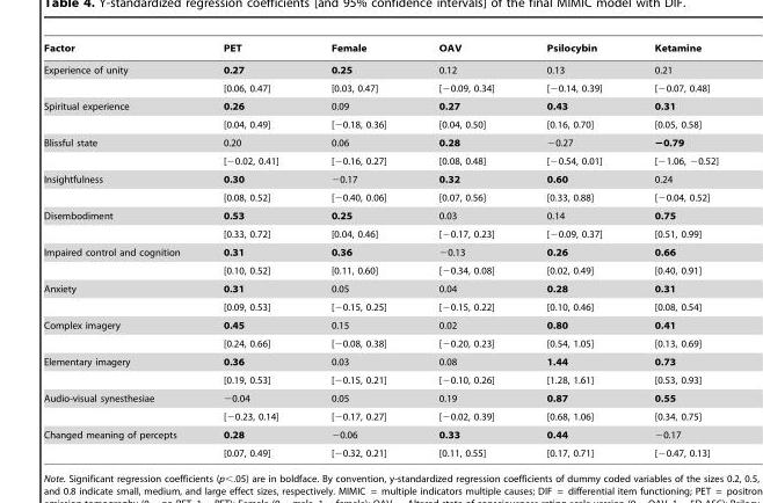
<table><thead><tr><td>Factor</td><td>PET</td><td>Female</td><td>OAV</td><td>Psilocybin</td><td>Ketamine</td></tr></thead><tbody><tr><td rowspan="2">Experience of unity</td><td>0.27</td><td>0.25</td><td>0.12</td><td>0.13</td><td>0.21</td></tr><tr><td>[0.06, 0.47]</td><td>[0.03, 0.47]</td><td>[−0.09, 0.34]</td><td>[−0.14, 0.39]</td><td>[−0.07, 0.48]</td></tr><tr><td rowspan="2">Spiritual experience</td><td>0.26</td><td>0.09</td><td>0.27</td><td>0.43</td><td>0.31</td></tr><tr><td>[0.04, 0.49]</td><td>[−0.18, 0.36]</td><td>[0.04, 0.50]</td><td>[0.16, 0.70]</td><td>[0.05, 0.58]</td></tr><tr><td rowspan="2">Blissful state</td><td>0.20</td><td>0.06</td><td>0.28</td><td>−0.27</td><td>−0.79</td></tr><tr><td>[−0.02, 0.41]</td><td>[−0.16, 0.27]</td><td>[0.08, 0.48]</td><td>[−0.54, 0.01]</td><td>[−1.06, −0.52]</td></tr><tr><td rowspan="2">Insightfulness</td><td>0.30</td><td>−0.17</td><td>0.32</td><td>0.60</td><td>0.24</td></tr><tr><td>[0.08, 0.52]</td><td>[−0.40, 0.06]</td><td>[0.07, 0.56]</td><td>[0.33, 0.88]</td><td>[−0.04, 0.52]</td></tr><tr><td rowspan="2">Disembodiment</td><td>0.53</td><td>0.25</td><td>0.03</td><td>0.14</td><td>0.75</td></tr><tr><td>[0.33, 0.72]</td><td>[0.04, 0.46]</td><td>[−0.17, 0.23]</td><td>[−0.09, 0.37]</td><td>[0.51, 0.99]</td></tr><tr><td rowspan="2">Impaired control and cognition</td><td>0.31</td><td>0.36</td><td>−0.13</td><td>0.26</td><td>0.66</td></tr><tr><td>[0.10, 0.52]</td><td>[0.11, 0.60]</td><td>[−0.34, 0.08]</td><td>[0.02, 0.49]</td><td>[0.40, 0.91]</td></tr><tr><td rowspan="2">Anxiety</td><td>0.31</td><td>0.05</td><td>0.04</td><td>0.28</td><td>0.31</td></tr><tr><td>[0.09, 0.53]</td><td>[−0.15, 0.25]</td><td>[−0.15, 0.22]</td><td>[0.10, 0.46]</td><td>[0.08, 0.54]</td></tr><tr><td rowspan="2">Complex imagery</td><td>0.45</td><td>0.15</td><td>0.02</td><td>0.80</td><td>0.41</td></tr><tr><td>[0.24, 0.66]</td><td>[−0.08, 0.38]</td><td>[−0.20, 0.23]</td><td>[0.54, 1.05]</td><td>[0.13, 0.69]</td></tr><tr><td rowspan="2">Elementary imagery</td><td>0.36</td><td>0.03</td><td>0.08</td><td>1.44</td><td>0.73</td></tr><tr><td>[0.19, 0.53]</td><td>[−0.15, 0.21]</td><td>[−0.10, 0.26]</td><td>[1.28, 1.61]</td><td>[0.53, 0.93]</td></tr><tr><td rowspan="2">Audio-visual synesthesiae</td><td>−0.04</td><td>0.05</td><td>0.19</td><td>0.87</td><td>0.55</td></tr><tr><td>[−0.23, 0.14]</td><td>[−0.17, 0.27]</td><td>[−0.02, 0.39]</td><td>[0.68, 1.06]</td><td>[0.34, 0.75]</td></tr><tr><td rowspan="2">Changed meaning of percepts</td><td>0.28</td><td>−0.06</td><td>0.33</td><td>0.44</td><td>−0.17</td></tr><tr><td>[0.07, 0.49]</td><td>[−0.32, 0.21]</td><td>[0.11, 0.55]</td><td>[0.17, 0.71]</td><td>[−0.47, 0.13]</td></tr></tbody></table>